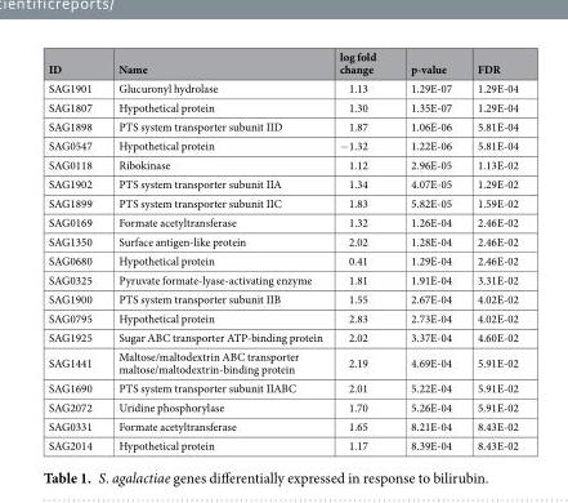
<table><thead><tr><td>ID</td><td>Name</td><td>log fold change</td><td>p-value</td><td>FDR</td></tr></thead><tbody><tr><td>SAG1901</td><td>Glucuronyl hydrolase</td><td>1.13</td><td>1.29E-07</td><td>1.29E-04</td></tr><tr><td>SAG1807</td><td>Hypothetical protein</td><td>1.30</td><td>1.35E-07</td><td>1.29E-04</td></tr><tr><td>SAG1898</td><td>PTS system transporter subunit IID</td><td>1.87</td><td>1.06E-06</td><td>5.81E-04</td></tr><tr><td>SAG0547</td><td>Hypothetical protein</td><td>−1.32</td><td>1.22E-06</td><td>5.81E-04</td></tr><tr><td>SAG0118</td><td>Ribokinase</td><td>1.12</td><td>2.96E-05</td><td>1.13E-02</td></tr><tr><td>SAG1902</td><td>PTS system transporter subunit IIA</td><td>1.34</td><td>4.07E-05</td><td>1.29E-02</td></tr><tr><td>SAG1899</td><td>PTS system transporter subunit IIC</td><td>1.83</td><td>5.82E-05</td><td>1.59E-02</td></tr><tr><td>SAG0169</td><td>Formate acetyltransferase</td><td>1.32</td><td>1.26E-04</td><td>2.46E-02</td></tr><tr><td>SAG1350</td><td>Surface antigen-like protein</td><td>2.02</td><td>1.28E-04</td><td>2.46E-02</td></tr><tr><td>SAG0680</td><td>Hypothetical protein</td><td>0.41</td><td>1.29E-04</td><td>2.46E-02</td></tr><tr><td>SAG0325</td><td>Pyruvate formate-lyase-activating enzyme</td><td>1.81</td><td>1.91E-04</td><td>3.31E-02</td></tr><tr><td>SAG1900</td><td>PTS system transporter subunit IIB</td><td>1.55</td><td>2.67E-04</td><td>4.02E-02</td></tr><tr><td>SAG0795</td><td>Hypothetical protein</td><td>2.83</td><td>2.73E-04</td><td>4.02E-02</td></tr><tr><td>SAG1925</td><td>Sugar ABC transporter ATP-binding protein</td><td>2.02</td><td>3.37E-04</td><td>4.60E-02</td></tr><tr><td>SAG1441</td><td>Maltose/maltodextrin ABC transporter maltose/maltodextrin-binding protein</td><td>2.19</td><td>4.69E-04</td><td>5.91E-02</td></tr><tr><td>SAG1690</td><td>PTS system transporter subunit IIABC</td><td>2.01</td><td>5.22E-04</td><td>5.91E-02</td></tr><tr><td>SAG2072</td><td>Uridine phosphorylase</td><td>1.70</td><td>5.26E-04</td><td>5.91E-02</td></tr><tr><td>SAG0331</td><td>Formate acetyltransferase</td><td>1.65</td><td>8.21E-04</td><td>8.43E-02</td></tr><tr><td>SAG2014</td><td>Hypothetical protein</td><td>1.17</td><td>8.39E-04</td><td>8.43E-02</td></tr></tbody></table>